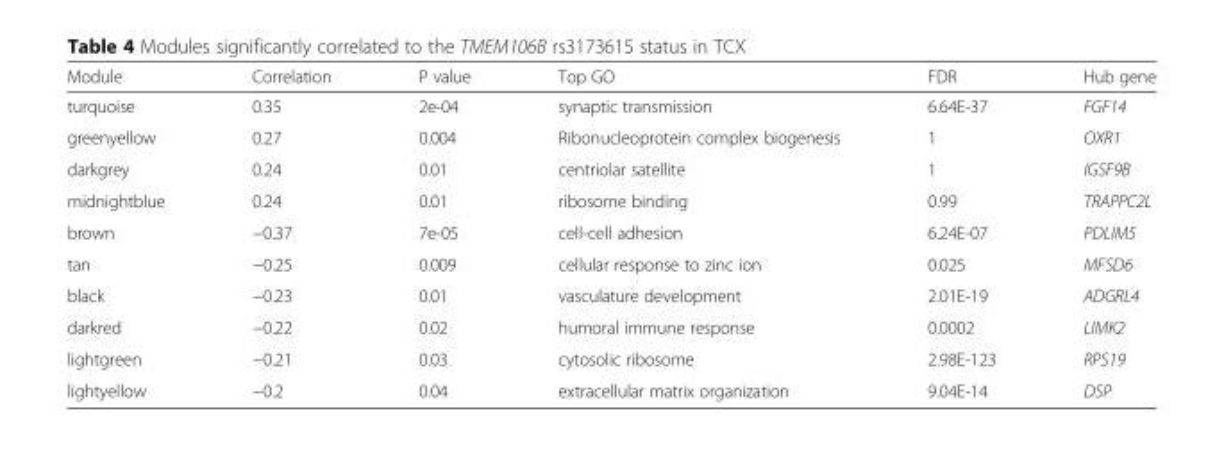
<table><thead><tr><td>Module</td><td>Correlation</td><td>P value</td><td>Top GO</td><td>FDR</td><td>Hub gene</td></tr></thead><tbody><tr><td>turquoise</td><td>0.35</td><td>2e-04</td><td>synaptic transmission</td><td>6.64E-37</td><td>FGF14</td></tr><tr><td>greenyellow</td><td>0.27</td><td>0.004</td><td>Ribonucleoprotein complex biogenesis</td><td>1</td><td>OXR1</td></tr><tr><td>darkgrey</td><td>0.24</td><td>0.01</td><td>centriolar satellite</td><td>1</td><td>IGSF9B</td></tr><tr><td>midnightblue</td><td>0.24</td><td>0.01</td><td>ribosome binding</td><td>0.99</td><td>TRAPPC2L</td></tr><tr><td>brown</td><td>−0.37</td><td>7e-05</td><td>cell-cell adhesion</td><td>6.24E-07</td><td>PDLIM5</td></tr><tr><td>tan</td><td>−0.25</td><td>0.009</td><td>cellular response to zinc ion</td><td>0.025</td><td>MFSD6</td></tr><tr><td>black</td><td>−0.23</td><td>0.01</td><td>vasculature development</td><td>2.01E-19</td><td>ADGRL4</td></tr><tr><td>darkred</td><td>−0.22</td><td>0.02</td><td>humoral immune response</td><td>0.0002</td><td>LIMK2</td></tr><tr><td>lightgreen</td><td>−0.21</td><td>0.03</td><td>cytosolic ribosome</td><td>2.98E-123</td><td>RPS19</td></tr><tr><td>lightyellow</td><td>−0.2</td><td>0.04</td><td>extracellular matrix organization</td><td>9.04E-14</td><td>DSP</td></tr></tbody></table>